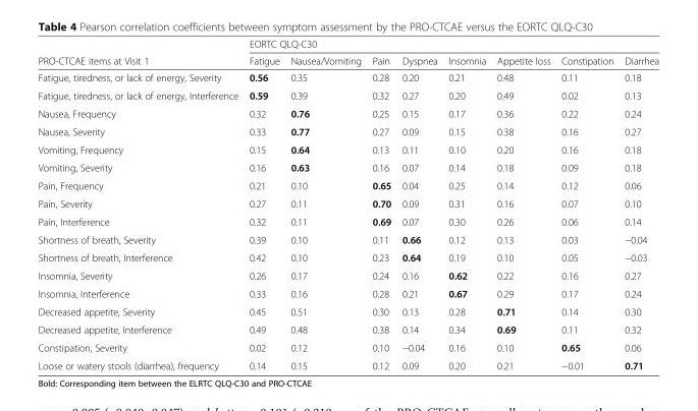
<table><thead><tr><td rowspan="2">PRO-CTCAE items at Visit 1</td><td colspan="8">EORTC QLQ-C30</td></tr><tr><td>Fatigue</td><td>Nausea/Vomiting</td><td>Pain</td><td>Dyspnea</td><td>Insomnia</td><td>Appetite loss</td><td>Constipation</td><td>Diarrhea</td></tr></thead><tbody><tr><td>Fatigue, tiredness, or lack of energy, Severity</td><td>0.56</td><td>0.35</td><td>0.28</td><td>0.20</td><td>0.21</td><td>0.48</td><td>0.11</td><td>0.18</td></tr><tr><td>Fatigue, tiredness, or lack of energy, Interference</td><td>0.59</td><td>0.39</td><td>0.32</td><td>0.27</td><td>0.20</td><td>0.49</td><td>0.02</td><td>0.13</td></tr><tr><td>Nausea, Frequency</td><td>0.32</td><td>0.76</td><td>0.25</td><td>0.15</td><td>0.17</td><td>0.36</td><td>0.22</td><td>0.24</td></tr><tr><td>Nausea, Severity</td><td>0.33</td><td>0.77</td><td>0.27</td><td>0.09</td><td>0.15</td><td>0.38</td><td>0.16</td><td>0.27</td></tr><tr><td>Vomiting, Frequency</td><td>0.15</td><td>0.64</td><td>0.13</td><td>0.11</td><td>0.10</td><td>0.20</td><td>0.16</td><td>0.18</td></tr><tr><td>Vomiting, Severity</td><td>0.16</td><td>0.63</td><td>0.16</td><td>0.07</td><td>0.14</td><td>0.18</td><td>0.09</td><td>0.18</td></tr><tr><td>Pain, Frequency</td><td>0.21</td><td>0.10</td><td>0.65</td><td>0.04</td><td>0.25</td><td>0.14</td><td>0.12</td><td>0.06</td></tr><tr><td>Pain, Severity</td><td>0.27</td><td>0.11</td><td>0.70</td><td>0.09</td><td>0.31</td><td>0.16</td><td>0.07</td><td>0.10</td></tr><tr><td>Pain, Interference</td><td>0.32</td><td>0.11</td><td>0.69</td><td>0.07</td><td>0.30</td><td>0.26</td><td>0.06</td><td>0.14</td></tr><tr><td>Shortness of breath, Severity</td><td>0.39</td><td>0.10</td><td>0.11</td><td>0.66</td><td>0.12</td><td>0.13</td><td>0.03</td><td>−0.04</td></tr><tr><td>Shortness of breath, Interference</td><td>0.42</td><td>0.10</td><td>0.23</td><td>0.64</td><td>0.19</td><td>0.10</td><td>0.05</td><td>−0.03</td></tr><tr><td>Insomnia, Severity</td><td>0.26</td><td>0.17</td><td>0.24</td><td>0.16</td><td>0.62</td><td>0.22</td><td>0.16</td><td>0.27</td></tr><tr><td>Insomnia, Interference</td><td>0.33</td><td>0.16</td><td>0.28</td><td>0.21</td><td>0.67</td><td>0.29</td><td>0.17</td><td>0.24</td></tr><tr><td>Decreased appetite, Severity</td><td>0.45</td><td>0.51</td><td>0.30</td><td>0.13</td><td>0.28</td><td>0.71</td><td>0.14</td><td>0.30</td></tr><tr><td>Decreased appetite, Interference</td><td>0.49</td><td>0.48</td><td>0.38</td><td>0.14</td><td>0.34</td><td>0.69</td><td>0.11</td><td>0.32</td></tr><tr><td>Constipation, Severity</td><td>0.02</td><td>0.12</td><td>0.10</td><td>−0.04</td><td>0.16</td><td>0.10</td><td>0.65</td><td>0.06</td></tr><tr><td>Loose or watery stools (diarrhea), frequency</td><td>0.14</td><td>0.15</td><td>0.12</td><td>0.09</td><td>0.20</td><td>0.21</td><td>−0.01</td><td>0.71</td></tr></tbody></table>